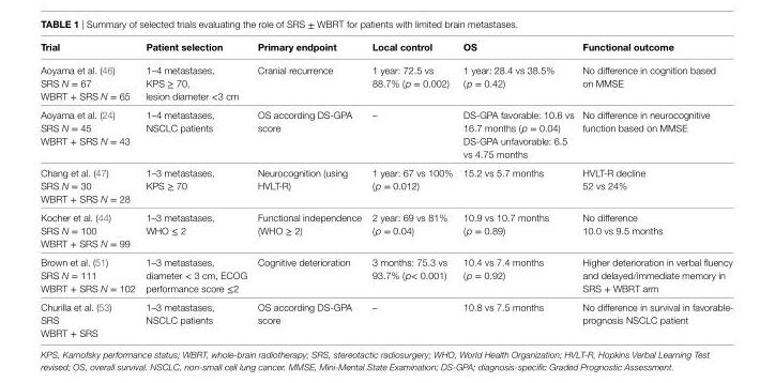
<table><thead><tr><td>Trial</td><td>Patient selection</td><td>Primary endpoint</td><td>Local control</td><td>OS</td><td>Functional outcome</td></tr></thead><tbody><tr><td>Aoyama et al. (46) SRS N = 67 WBRT + SRS N = 65</td><td>1–4 metastases, KPS ≥ 70, lesion diameter &lt;3 cm</td><td>Cranial recurrence</td><td>1 year: 72.5 vs 88.7% (p = 0.002)</td><td>1 year: 28.4 vs 38.5% (p = 0.42)</td><td>No difference in cognition based on MMSE</td></tr><tr><td>Aoyama et al. (24) SRS N = 45 WBRT + SRS N = 43</td><td>1–4 metastases, NSCLC patients</td><td>OS according DS-GPA score</td><td>–</td><td>DS-GPA favorable: 10.6 vs 16.7 months (p = 0.04) DS-GPA unfavorable: 6.5 vs 4.75 months</td><td>No difference in neurocognitive function based on MMSE</td></tr><tr><td>Chang et al. (47) SRS N = 30 WBRT + SRS N = 28</td><td>1–3 metastases, KPS ≥ 70</td><td>Neurocognition (using HVLT-R)</td><td>1 year: 67 vs 100% (p = 0.012)</td><td>15.2 vs 5.7 months</td><td>HVLT-R decline 52 vs 24%</td></tr><tr><td>Kocher et al. (44) SRS N = 100 WBRT + SRS N = 99</td><td>1–3 metastases, WHO ≤ 2</td><td>Functional independence (WHO ≥ 2)</td><td>2 year: 69 vs 81% (p = 0.04)</td><td>10.9 vs 10.7 months (p = 0.89)</td><td>No difference 10.0 vs 9.5 months</td></tr><tr><td>Brown et al. (51) SRS N = 111 WBRT + SRS N = 102</td><td>1–3 metastases, diameter &lt; 3 cm, ECOG performance score ≤2</td><td>Cognitive deterioration</td><td>3 months: 75.3 vs 93.7% (p&lt; 0.001)</td><td>10.4 vs 7.4 months (p = 0.92)</td><td>Higher deterioration in verbal fluency and delayed/immediate memory in SRS + WBRT arm</td></tr><tr><td>Churilla et al. (53) SRS WBRT + SRS</td><td>1–3 metastases, NSCLC patients</td><td>OS according DS-GPA score</td><td>–</td><td>10.8 vs 7.5 months</td><td>No difference in survival in favorable- prognosis NSCLC patient</td></tr></tbody></table>